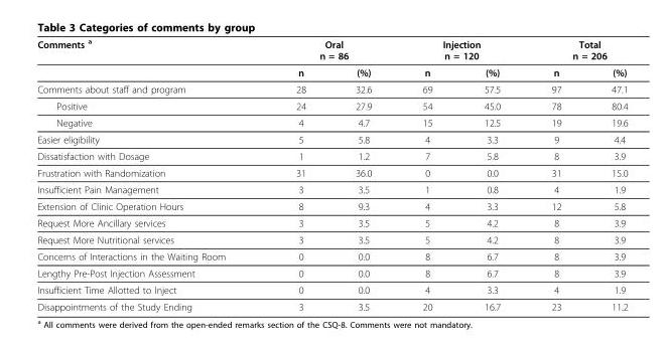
<table><thead><tr><td rowspan="2">Comments <sup>a</sup></td><td colspan="2">Oral n = 86</td><td colspan="2">Injection n = 120</td><td colspan="2">Total n = 206</td></tr><tr><td>n</td><td>(%)</td><td>n</td><td>(%)</td><td>n</td><td>(%)</td></tr></thead><tbody><tr><td>Comments about staff and program</td><td>28</td><td>32.6</td><td>69</td><td>57.5</td><td>97</td><td>47.1</td></tr><tr><td>Positive</td><td>24</td><td>27.9</td><td>54</td><td>45.0</td><td>78</td><td>80.4</td></tr><tr><td>Negative</td><td>4</td><td>4.7</td><td>15</td><td>12.5</td><td>19</td><td>19.6</td></tr><tr><td>Easier eligibility</td><td>5</td><td>5.8</td><td>4</td><td>3.3</td><td>9</td><td>4.4</td></tr><tr><td>Dissatisfaction with Dosage</td><td>1</td><td>1.2</td><td>7</td><td>5.8</td><td>8</td><td>3.9</td></tr><tr><td>Frustration with Randomization</td><td>31</td><td>36.0</td><td>0</td><td>0.0</td><td>31</td><td>15.0</td></tr><tr><td>Insufficient Pain Management</td><td>3</td><td>3.5</td><td>1</td><td>0.8</td><td>4</td><td>1.9</td></tr><tr><td>Extension of Clinic Operation Hours</td><td>8</td><td>9.3</td><td>4</td><td>3.3</td><td>12</td><td>5.8</td></tr><tr><td>Request More Ancillary services</td><td>3</td><td>3.5</td><td>5</td><td>4.2</td><td>8</td><td>3.9</td></tr><tr><td>Request More Nutritional services</td><td>3</td><td>3.5</td><td>5</td><td>4.2</td><td>8</td><td>3.9</td></tr><tr><td>Concerns of Interactions in the Waiting Room</td><td>0</td><td>0.0</td><td>8</td><td>6.7</td><td>8</td><td>3.9</td></tr><tr><td>Lengthy Pre-Post Injection Assessment</td><td>0</td><td>0.0</td><td>8</td><td>6.7</td><td>8</td><td>3.9</td></tr><tr><td>Insufficient Time Allotted to Inject</td><td>0</td><td>0.0</td><td>4</td><td>3.3</td><td>4</td><td>1.9</td></tr><tr><td>Disappointments of the Study Ending</td><td>3</td><td>3.5</td><td>20</td><td>16.7</td><td>23</td><td>11.2</td></tr></tbody></table>